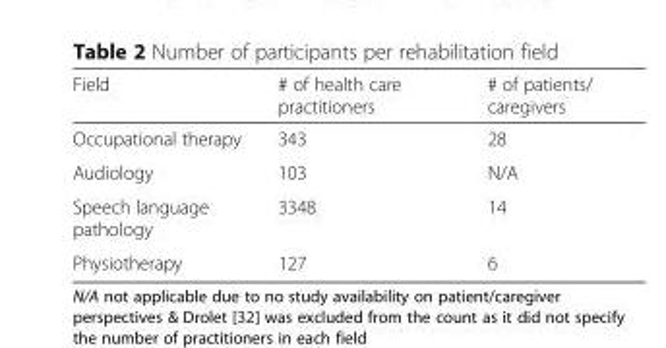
<table><thead><tr><td>Field</td><td># of health care practitioners</td><td># of patients/ caregivers</td></tr></thead><tbody><tr><td>Occupational therapy</td><td>343</td><td>28</td></tr><tr><td>Audiology</td><td>103</td><td>N/A</td></tr><tr><td>Speech language pathology</td><td>3348</td><td>14</td></tr><tr><td>Physiotherapy</td><td>127</td><td>6</td></tr></tbody></table>